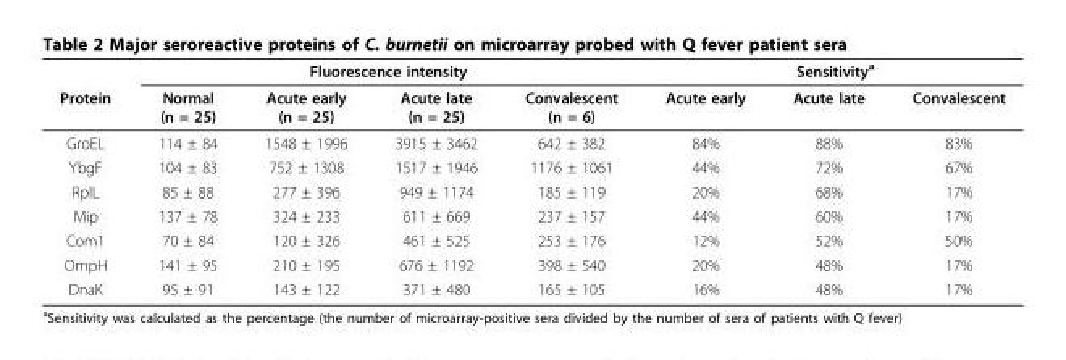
<table><thead><tr><td rowspan="2">Protein</td><td colspan="4">Fluorescence intensity</td><td colspan="3">Sensitivity<sup>a</sup></td></tr><tr><td>Normal (n = 25)</td><td>Acute early (n = 25)</td><td>Acute late (n = 25)</td><td>Convalescent (n = 6)</td><td>Acute early</td><td>Acute late</td><td>Convalescent</td></tr></thead><tbody><tr><td>GroEL</td><td>114 ± 84</td><td>1548 ± 1996</td><td>3915 ± 3462</td><td>642 ± 382</td><td>84%</td><td>88%</td><td>83%</td></tr><tr><td>YbgF</td><td>104 ± 83</td><td>752 ± 1308</td><td>1517 ± 1946</td><td>1176 ± 1061</td><td>44%</td><td>72%</td><td>67%</td></tr><tr><td>RplL</td><td>85 ± 88</td><td>277 ± 396</td><td>949 ± 1174</td><td>185 ± 119</td><td>20%</td><td>68%</td><td>17%</td></tr><tr><td>Mip</td><td>137 ± 78</td><td>324 ± 233</td><td>611 ± 669</td><td>237 ± 157</td><td>44%</td><td>60%</td><td>17%</td></tr><tr><td>Com1</td><td>70 ± 84</td><td>120 ± 326</td><td>461 ± 525</td><td>253 ± 176</td><td>12%</td><td>52%</td><td>50%</td></tr><tr><td>OmpH</td><td>141 ± 95</td><td>210 ± 195</td><td>676 ± 1192</td><td>398 ± 540</td><td>20%</td><td>48%</td><td>17%</td></tr><tr><td>DnaK</td><td>95 ± 91</td><td>143 ± 122</td><td>371 ± 480</td><td>165 ± 105</td><td>16%</td><td>48%</td><td>17%</td></tr></tbody></table>